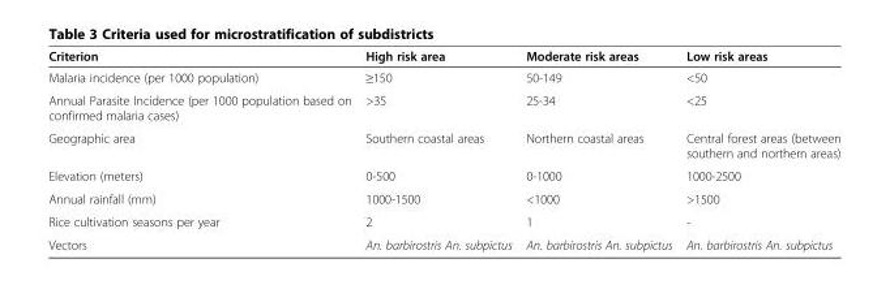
<table><thead><tr><td>Criterion</td><td>High risk area</td><td>Moderate risk areas</td><td>Low risk areas</td></tr></thead><tbody><tr><td>Malaria incidence (per 1000 population)</td><td>≥150</td><td>50-149</td><td>&lt;50</td></tr><tr><td>Annual Parasite Incidence (per 1000 population based on confirmed malaria cases)</td><td>&gt;35</td><td>25-34</td><td>&lt;25</td></tr><tr><td>Geographic area</td><td>Southern coastal areas</td><td>Northern coastal areas</td><td>Central forest areas (between southern and northern areas)</td></tr><tr><td>Elevation (meters)</td><td>0-500</td><td>0-1000</td><td>1000-2500</td></tr><tr><td>Annual rainfall (mm)</td><td>1000-1500</td><td>&lt;1000</td><td>&gt;1500</td></tr><tr><td>Rice cultivation seasons per year</td><td>2</td><td>1</td><td>-</td></tr><tr><td>Vectors</td><td>An. barbirostris An. subpictus</td><td>An. barbirostris An. subpictus</td><td>An. barbirostris An. subpictus</td></tr></tbody></table>